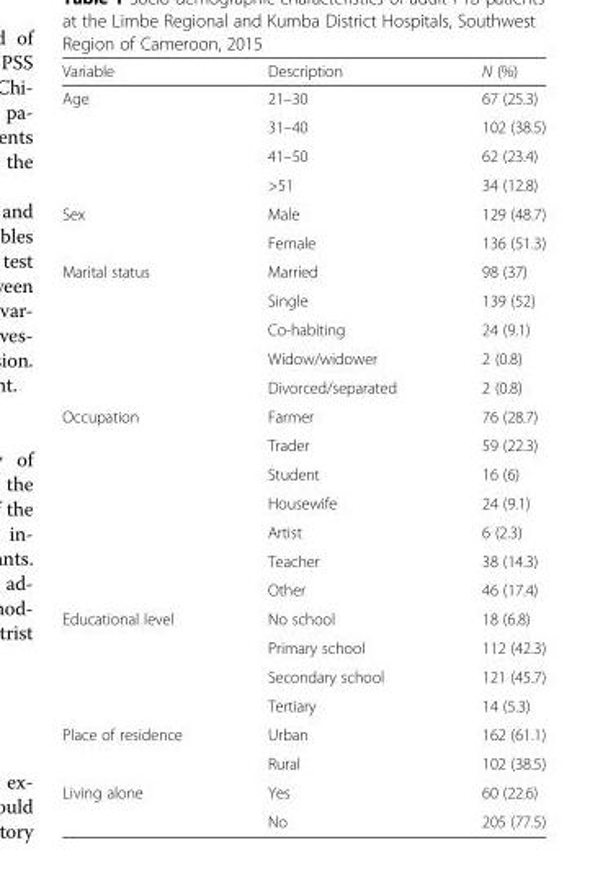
<table><thead><tr><td>Variable</td><td>Description</td><td>N (%)</td></tr></thead><tbody><tr><td rowspan="4">Age</td><td>21–30</td><td>67 (25.3)</td></tr><tr><td>31–40</td><td>102 (38.5)</td></tr><tr><td>41–50</td><td>62 (23.4)</td></tr><tr><td>&gt;51</td><td>34 (12.8)</td></tr><tr><td rowspan="2">Sex</td><td>Male</td><td>129 (48.7)</td></tr><tr><td>Female</td><td>136 (51.3)</td></tr><tr><td rowspan="5">Marital status</td><td>Married</td><td>98 (37)</td></tr><tr><td>Single</td><td>139 (52)</td></tr><tr><td>Co-habiting</td><td>24 (9.1)</td></tr><tr><td>Widow/widower</td><td>2 (0.8)</td></tr><tr><td>Divorced/separated</td><td>2 (0.8)</td></tr><tr><td rowspan="7">Occupation</td><td>Farmer</td><td>76 (28.7)</td></tr><tr><td>Trader</td><td>59 (22.3)</td></tr><tr><td>Student</td><td>16 (6)</td></tr><tr><td>Housewife</td><td>24 (9.1)</td></tr><tr><td>Artist</td><td>6 (2.3)</td></tr><tr><td>Teacher</td><td>38 (14.3)</td></tr><tr><td>Other</td><td>46 (17.4)</td></tr><tr><td rowspan="4">Educational level</td><td>No school</td><td>18 (6.8)</td></tr><tr><td>Primary school</td><td>112 (42.3)</td></tr><tr><td>Secondary school</td><td>121 (45.7)</td></tr><tr><td>Tertiary</td><td>14 (5.3)</td></tr><tr><td rowspan="2">Place of residence</td><td>Urban</td><td>162 (61.1)</td></tr><tr><td>Rural</td><td>102 (38.5)</td></tr><tr><td rowspan="2">Living alone</td><td>Yes</td><td>60 (22.6)</td></tr><tr><td>No</td><td>205 (77.5)</td></tr></tbody></table>